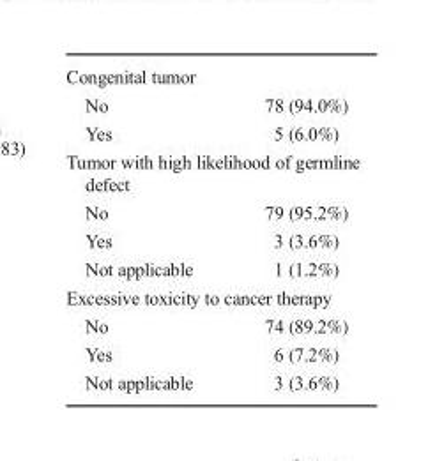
<table><tbody><tr><td colspan="2">Congenital tumor</td></tr><tr><td>No</td><td>78 (94.0%)</td></tr><tr><td>Yes</td><td>5 (6.0%)</td></tr><tr><td colspan="2">Tumor with high likelihood of germline defect</td></tr><tr><td>No</td><td>79 (95.2%)</td></tr><tr><td>Yes</td><td>3 (3.6%)</td></tr><tr><td>Not applicable</td><td>1 (1.2%)</td></tr><tr><td colspan="2">Excessive toxicity to cancer therapy</td></tr><tr><td>No</td><td>74 (89.2%)</td></tr><tr><td>Yes</td><td>6 (7.2%)</td></tr><tr><td>Not applicable</td><td>3 (3.6%)</td></tr></tbody></table>